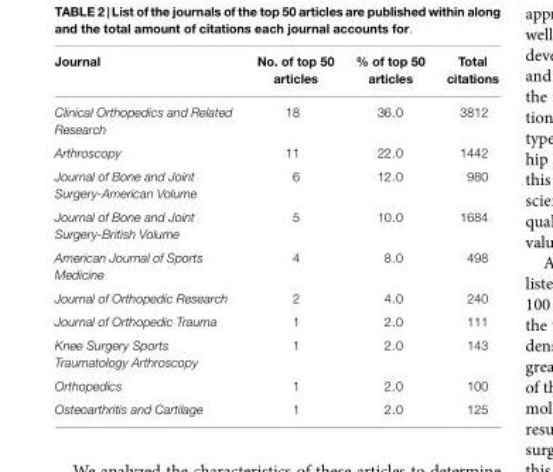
<table><thead><tr><td>Journal</td><td>No. of top 50 articles</td><td>% of top 50 articles</td><td>Total citations</td></tr></thead><tbody><tr><td>Clinical Orthopedics and Related Research</td><td>18</td><td>36.0</td><td>3812</td></tr><tr><td>Arthroscopy</td><td>11</td><td>22.0</td><td>1442</td></tr><tr><td>Journal of Bone and Joint Surgery-American Volume</td><td>6</td><td>12.0</td><td>980</td></tr><tr><td>Journal of Bone and Joint Surgery-British Volume</td><td>5</td><td>10.0</td><td>1684</td></tr><tr><td>American Journal of Sports Medicine</td><td>4</td><td>8.0</td><td>498</td></tr><tr><td>Journal of Orthopedic Research</td><td>2</td><td>4.0</td><td>240</td></tr><tr><td>Journal of Orthopedic Trauma</td><td>1</td><td>2.0</td><td>111</td></tr><tr><td>Knee Surgery Sports Traumatology Arthroscopy</td><td>1</td><td>2.0</td><td>143</td></tr><tr><td>Orthopedics</td><td>1</td><td>2.0</td><td>100</td></tr><tr><td>Osteoarthritis and Cartilage</td><td>1</td><td>2.0</td><td>125</td></tr></tbody></table>